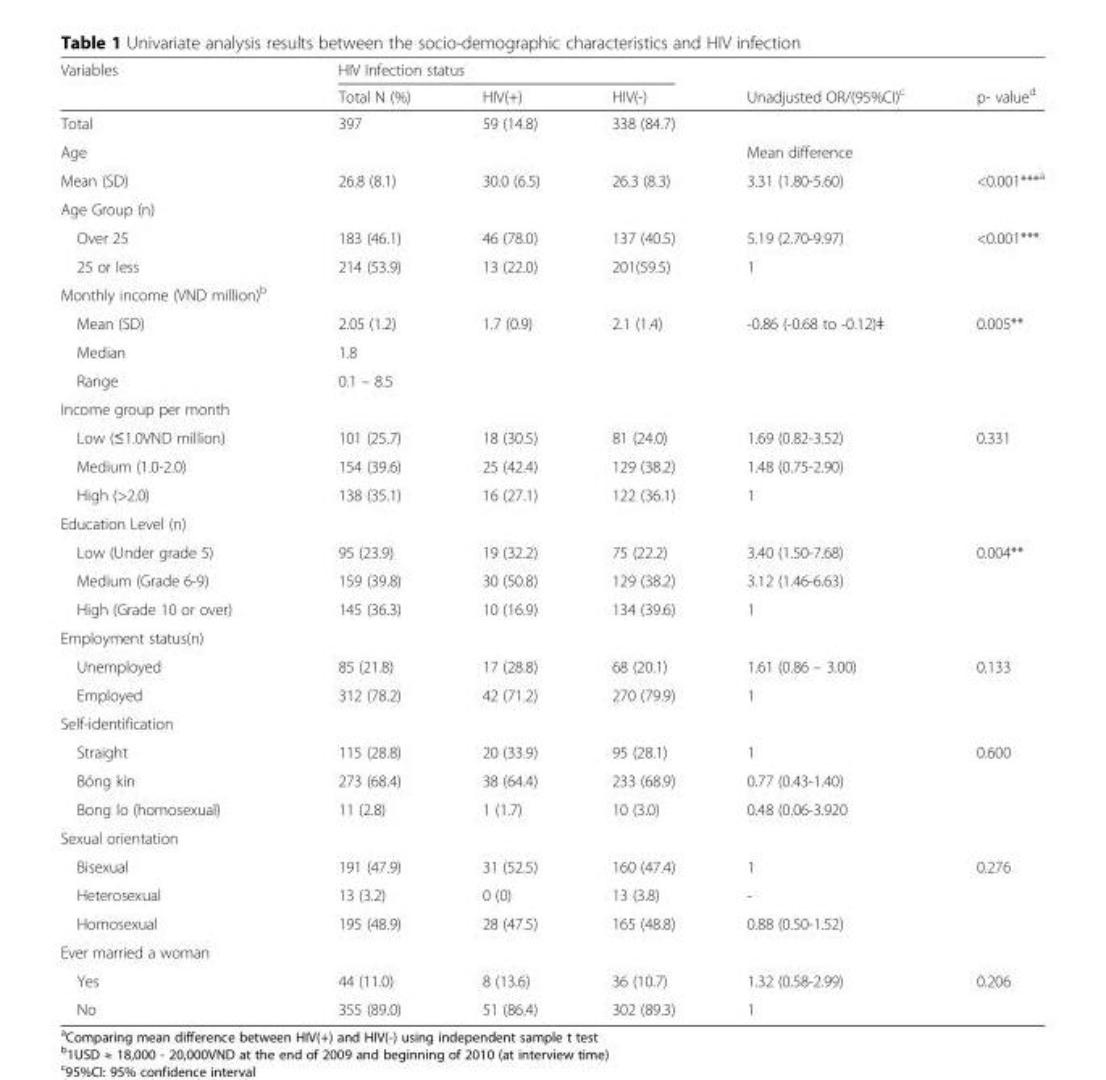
<table><thead><tr><td rowspan="2">Variables</td><td colspan="3">HIV Infection status</td><td rowspan="2">Unadjusted OR/(95%CI)<sup>c</sup></td><td rowspan="2">p- value<sup>d</sup></td></tr><tr><td>Total N (%)</td><td>HIV(+)</td><td>HIV(-)</td></tr></thead><tbody><tr><td>Total</td><td>397</td><td>59 (14.8)</td><td>338 (84.7)</td><td></td><td></td></tr><tr><td>Age</td><td></td><td></td><td></td><td>Mean difference</td><td></td></tr><tr><td>Mean (SD)</td><td>26.8 (8.1)</td><td>30.0 (6.5)</td><td>26.3 (8.3)</td><td>3.31 (1.80-5.60)</td><td>&lt;0.001***<sup>a</sup></td></tr><tr><td colspan="6">Age Group (n)</td></tr><tr><td>Over 25</td><td>183 (46.1)</td><td>46 (78.0)</td><td>137 (40.5)</td><td>5.19 (2.70-9.97)</td><td>&lt;0.001***</td></tr><tr><td>25 or less</td><td>214 (53.9)</td><td>13 (22.0)</td><td>201(59.5)</td><td>1</td><td></td></tr><tr><td colspan="6">Monthly income (VND million)<sup>b</sup></td></tr><tr><td>Mean (SD)</td><td>2.05 (1.2)</td><td>1.7 (0.9)</td><td>2.1 (1.4)</td><td>-0.86 (-0.68 to -0.12)ǂ</td><td>0.005**</td></tr><tr><td>Median</td><td>1.8</td><td></td><td></td><td></td><td></td></tr><tr><td>Range</td><td>0.1 – 8.5</td><td></td><td></td><td></td><td></td></tr><tr><td colspan="6">Income group per month</td></tr><tr><td>Low (≤1.0VND million)</td><td>101 (25.7)</td><td>18 (30.5)</td><td>81 (24.0)</td><td>1.69 (0.82-3.52)</td><td>0.331</td></tr><tr><td>Medium (1.0-2.0)</td><td>154 (39.6)</td><td>25 (42.4)</td><td>129 (38.2)</td><td>1.48 (0.75-2.90)</td><td></td></tr><tr><td>High (&gt;2.0)</td><td>138 (35.1)</td><td>16 (27.1)</td><td>122 (36.1)</td><td>1</td><td></td></tr><tr><td colspan="6">Education Level (n)</td></tr><tr><td>Low (Under grade 5)</td><td>95 (23.9)</td><td>19 (32.2)</td><td>75 (22.2)</td><td>3.40 (1.50-7.68)</td><td>0.004**</td></tr><tr><td>Medium (Grade 6-9)</td><td>159 (39.8)</td><td>30 (50.8)</td><td>129 (38.2)</td><td>3.12 (1.46-6.63)</td><td></td></tr><tr><td>High (Grade 10 or over)</td><td>145 (36.3)</td><td>10 (16.9)</td><td>134 (39.6)</td><td>1</td><td></td></tr><tr><td colspan="6">Employment status(n)</td></tr><tr><td>Unemployed</td><td>85 (21.8)</td><td>17 (28.8)</td><td>68 (20.1)</td><td>1.61 (0.86 – 3.00)</td><td>0.133</td></tr><tr><td>Employed</td><td>312 (78.2)</td><td>42 (71.2)</td><td>270 (79.9)</td><td>1</td><td></td></tr><tr><td colspan="6">Self-identification</td></tr><tr><td>Straight</td><td>115 (28.8)</td><td>20 (33.9)</td><td>95 (28.1)</td><td>1</td><td>0.600</td></tr><tr><td>Bóng kín</td><td>273 (68.4)</td><td>38 (64.4)</td><td>233 (68.9)</td><td>0.77 (0.43-1.40)</td><td></td></tr><tr><td>Bong lo (homosexual)</td><td>11 (2.8)</td><td>1 (1.7)</td><td>10 (3.0)</td><td>0.48 (0.06-3.920</td><td></td></tr><tr><td colspan="6">Sexual orientation</td></tr><tr><td>Bisexual</td><td>191 (47.9)</td><td>31 (52.5)</td><td>160 (47.4)</td><td>1</td><td>0.276</td></tr><tr><td>Heterosexual</td><td>13 (3.2)</td><td>0 (0)</td><td>13 (3.8)</td><td>-</td><td></td></tr><tr><td>Homosexual</td><td>195 (48.9)</td><td>28 (47.5)</td><td>165 (48.8)</td><td>0.88 (0.50-1.52)</td><td></td></tr><tr><td colspan="6">Ever married a woman</td></tr><tr><td>Yes</td><td>44 (11.0)</td><td>8 (13.6)</td><td>36 (10.7)</td><td>1.32 (0.58-2.99)</td><td>0.206</td></tr><tr><td>No</td><td>355 (89.0)</td><td>51 (86.4)</td><td>302 (89.3)</td><td>1</td><td></td></tr></tbody></table>